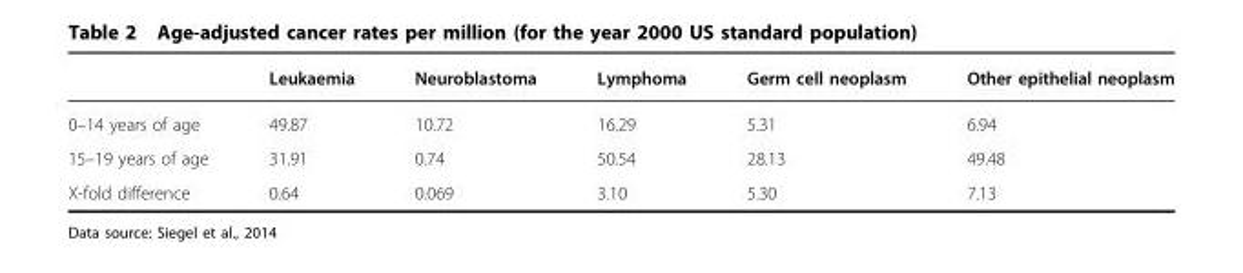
<table><thead><tr><td></td><td>Leukaemia</td><td>Neuroblastoma</td><td>Lymphoma</td><td>Germ cell neoplasm</td><td>Other epithelial neoplasm</td></tr></thead><tbody><tr><td>0–14 years of age</td><td>49.87</td><td>10.72</td><td>16.29</td><td>5.31</td><td>6.94</td></tr><tr><td>15–19 years of age</td><td>31.91</td><td>0.74</td><td>50.54</td><td>28.13</td><td>49.48</td></tr><tr><td>X-fold difference</td><td>0.64</td><td>0.069</td><td>3.10</td><td>5.30</td><td>7.13</td></tr></tbody></table>